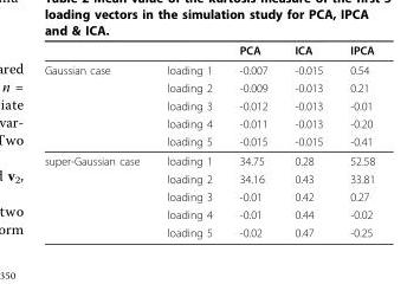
<table><thead><tr><td></td><td></td><td>PCA</td><td>ICA</td><td>IPCA</td></tr></thead><tbody><tr><td rowspan="5">Gaussian case</td><td>loading 1</td><td>-0.007</td><td>-0.015</td><td>0.54</td></tr><tr><td>loading 2</td><td>-0.009</td><td>-0.013</td><td>0.21</td></tr><tr><td>loading 3</td><td>-0.012</td><td>-0.013</td><td>-0.01</td></tr><tr><td>loading 4</td><td>-0.011</td><td>-0.013</td><td>-0.20</td></tr><tr><td>loading 5</td><td>-0.015</td><td>-0.015</td><td>-0.41</td></tr><tr><td rowspan="5">super-Gaussian case</td><td>loading 1</td><td>34.75</td><td>0.28</td><td>52.58</td></tr><tr><td>loading 2</td><td>34.16</td><td>0.43</td><td>33.81</td></tr><tr><td>loading 3</td><td>-0.01</td><td>0.42</td><td>0.27</td></tr><tr><td>loading 4</td><td>-0.01</td><td>0.44</td><td>-0.02</td></tr><tr><td>loading 5</td><td>-0.02</td><td>0.47</td><td>-0.25</td></tr></tbody></table>